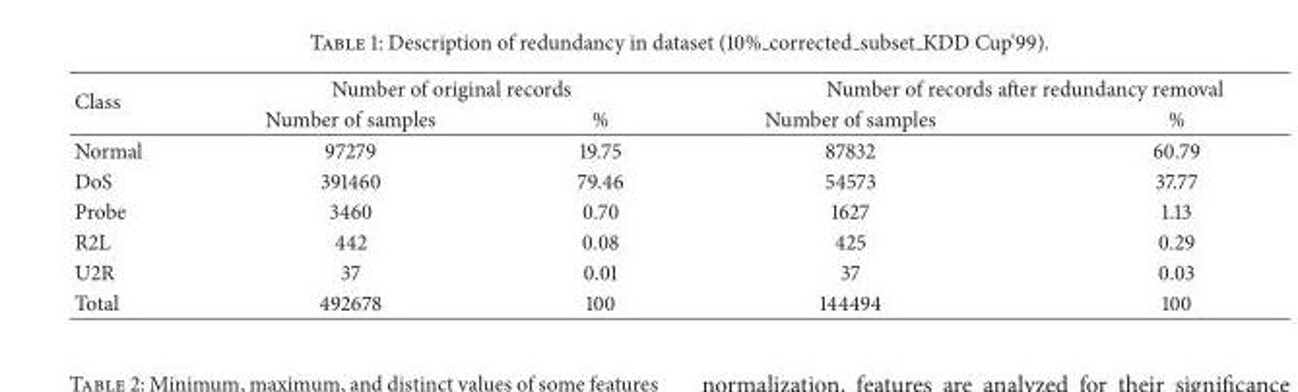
<table><thead><tr><td rowspan="2">Class</td><td colspan="2">Number of original records</td><td colspan="2">Number of records after redundancy removal</td></tr><tr><td>Number of samples</td><td>%</td><td>Number of samples</td><td>%</td></tr></thead><tbody><tr><td>Normal</td><td>97279</td><td>19.75</td><td>87832</td><td>60.79</td></tr><tr><td>DoS</td><td>391460</td><td>79.46</td><td>54573</td><td>37.77</td></tr><tr><td>Probe</td><td>3460</td><td>0.70</td><td>1627</td><td>1.13</td></tr><tr><td>R2L</td><td>442</td><td>0.08</td><td>425</td><td>0.29</td></tr><tr><td>U2R</td><td>37</td><td>0.01</td><td>37</td><td>0.03</td></tr><tr><td>Total</td><td>492678</td><td>100</td><td>144494</td><td>100</td></tr></tbody></table>